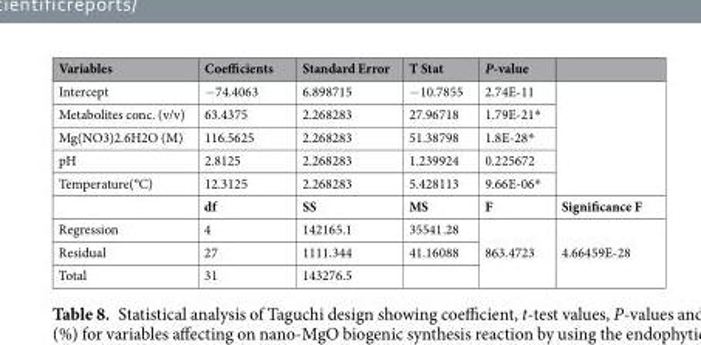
<table><thead><tr><td>Variables</td><td>Coefficients</td><td>Standard Error</td><td>T Stat</td><td>P-value</td><td></td></tr></thead><tbody><tr><td>Intercept</td><td>−74.4063</td><td>6.898715</td><td>−10.7855</td><td>2.74E-11</td><td rowspan="5"></td></tr><tr><td>Metabolites conc. (v/v)</td><td>63.4375</td><td>2.268283</td><td>27.96718</td><td>1.79E-21*</td></tr><tr><td>Mg(NO3)2.6H2O (M)</td><td>116.5625</td><td>2.268283</td><td>51.38798</td><td>1.8E-28*</td></tr><tr><td>pH</td><td>2.8125</td><td>2.268283</td><td>1.239924</td><td>0.225672</td></tr><tr><td rowspan="2">Temperature(°C)</td><td>12.3125</td><td>2.268283</td><td>5.428113</td><td>9.66E-06*</td></tr><tr><td>df</td><td>SS</td><td>MS</td><td>F</td><td>Significance F</td></tr><tr><td>Regression</td><td>4</td><td>142165.1</td><td>35541.28</td><td rowspan="3">863.4723</td><td rowspan="3">4.66459E-28</td></tr><tr><td>Residual</td><td>27</td><td>1111.344</td><td>41.16088</td></tr><tr><td>Total</td><td>31</td><td>143276.5</td><td></td></tr></tbody></table>